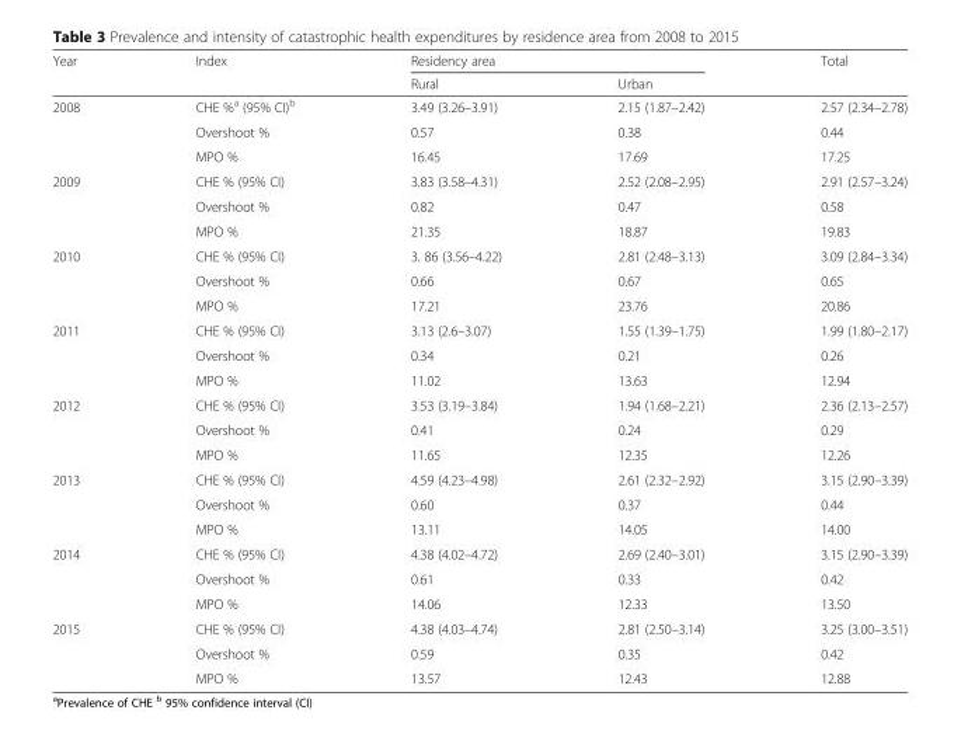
<table><thead><tr><td rowspan="2">Year</td><td rowspan="2">Index</td><td colspan="2">Residency area</td><td rowspan="2">Total</td></tr><tr><td>Rural</td><td>Urban</td></tr></thead><tbody><tr><td rowspan="3">2008</td><td>CHE %<sup>a</sup> (95% CI)<sup>b</sup></td><td>3.49 (3.26–3.91)</td><td>2.15 (1.87–2.42)</td><td>2.57 (2.34–2.78)</td></tr><tr><td>Overshoot %</td><td>0.57</td><td>0.38</td><td>0.44</td></tr><tr><td>MPO %</td><td>16.45</td><td>17.69</td><td>17.25</td></tr><tr><td rowspan="3">2009</td><td>CHE % (95% CI)</td><td>3.83 (3.58–4.31)</td><td>2.52 (2.08–2.95)</td><td>2.91 (2.57–3.24)</td></tr><tr><td>Overshoot %</td><td>0.82</td><td>0.47</td><td>0.58</td></tr><tr><td>MPO %</td><td>21.35</td><td>18.87</td><td>19.83</td></tr><tr><td rowspan="3">2010</td><td>CHE % (95% CI)</td><td>3. 86 (3.56–4.22)</td><td>2.81 (2.48–3.13)</td><td>3.09 (2.84–3.34)</td></tr><tr><td>Overshoot %</td><td>0.66</td><td>0.67</td><td>0.65</td></tr><tr><td>MPO %</td><td>17.21</td><td>23.76</td><td>20.86</td></tr><tr><td rowspan="3">2011</td><td>CHE % (95% CI)</td><td>3.13 (2.6–3.07)</td><td>1.55 (1.39–1.75)</td><td>1.99 (1.80–2.17)</td></tr><tr><td>Overshoot %</td><td>0.34</td><td>0.21</td><td>0.26</td></tr><tr><td>MPO %</td><td>11.02</td><td>13.63</td><td>12.94</td></tr><tr><td rowspan="3">2012</td><td>CHE % (95% CI)</td><td>3.53 (3.19–3.84)</td><td>1.94 (1.68–2.21)</td><td>2.36 (2.13–2.57)</td></tr><tr><td>Overshoot %</td><td>0.41</td><td>0.24</td><td>0.29</td></tr><tr><td>MPO %</td><td>11.65</td><td>12.35</td><td>12.26</td></tr><tr><td rowspan="3">2013</td><td>CHE % (95% CI)</td><td>4.59 (4.23–4.98)</td><td>2.61 (2.32–2.92)</td><td>3.15 (2.90–3.39)</td></tr><tr><td>Overshoot %</td><td>0.60</td><td>0.37</td><td>0.44</td></tr><tr><td>MPO %</td><td>13.11</td><td>14.05</td><td>14.00</td></tr><tr><td rowspan="3">2014</td><td>CHE % (95% CI)</td><td>4.38 (4.02–4.72)</td><td>2.69 (2.40–3.01)</td><td>3.15 (2.90–3.39)</td></tr><tr><td>Overshoot %</td><td>0.61</td><td>0.33</td><td>0.42</td></tr><tr><td>MPO %</td><td>14.06</td><td>12.33</td><td>13.50</td></tr><tr><td rowspan="3">2015</td><td>CHE % (95% CI)</td><td>4.38 (4.03–4.74)</td><td>2.81 (2.50–3.14)</td><td>3.25 (3.00–3.51)</td></tr><tr><td>Overshoot %</td><td>0.59</td><td>0.35</td><td>0.42</td></tr><tr><td>MPO %</td><td>13.57</td><td>12.43</td><td>12.88</td></tr></tbody></table>